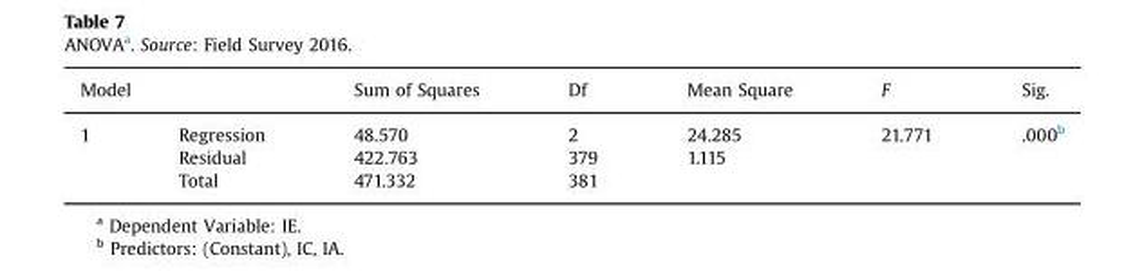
<table><thead><tr><td colspan="2">Model</td><td rowspan="2">Sum of Squares 48.570</td><td rowspan="2">Df 2</td><td rowspan="2">Mean Square 24.285</td><td rowspan="2">F 21.771</td><td rowspan="2">Sig. .000<sup>b</sup></td></tr><tr><td>1</td><td>Regression</td></tr></thead><tbody><tr><td></td><td>Residual</td><td>422.763</td><td>379</td><td>1.115</td><td></td><td></td></tr><tr><td></td><td>Total</td><td>471.332</td><td>381</td><td></td><td></td><td></td></tr></tbody></table>